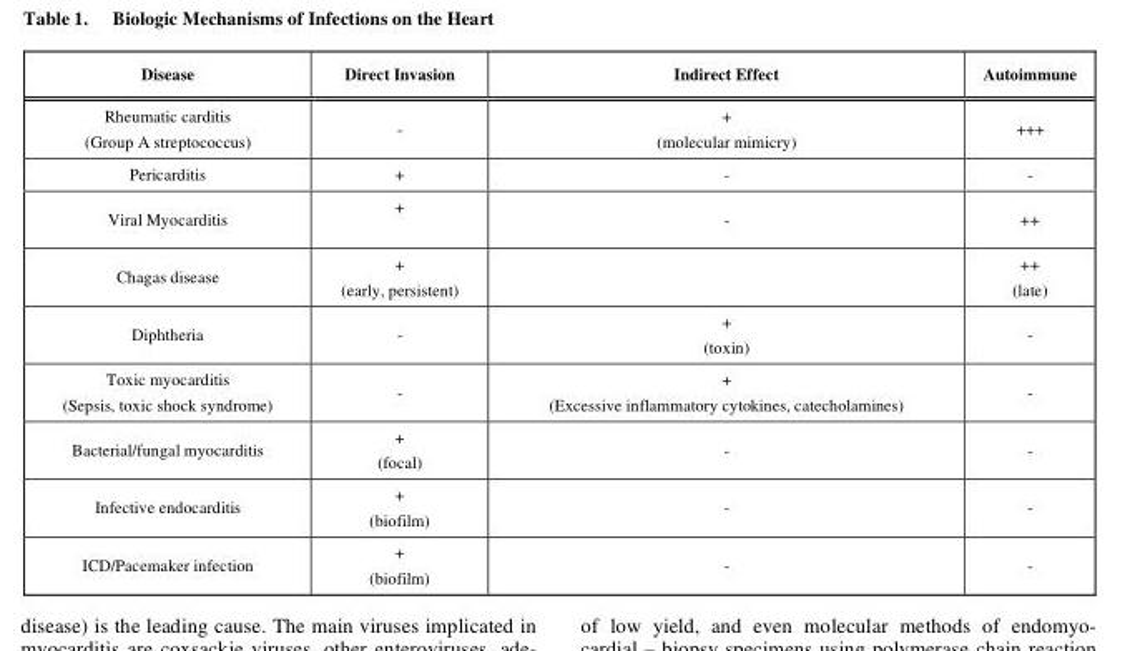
<table><thead><tr><td>Disease</td><td>Direct Invasion</td><td>Indirect Effect</td><td>Autoimmune</td></tr></thead><tbody><tr><td>Rheumatic carditis (Group A streptococcus)</td><td>-</td><td>+ (molecular mimicry)</td><td>+++</td></tr><tr><td>Pericarditis</td><td>+</td><td>-</td><td>-</td></tr><tr><td>Viral Myocarditis</td><td>+</td><td>-</td><td>++</td></tr><tr><td>Chagas disease</td><td>+ (early, persistent)</td><td></td><td>++ (late)</td></tr><tr><td>Diphtheria</td><td>-</td><td>+ (toxin)</td><td>-</td></tr><tr><td>Toxic myocarditis (Sepsis, toxic shock syndrome)</td><td>-</td><td>+ (Excessive inflammatory cytokines, catecholamines)</td><td>-</td></tr><tr><td>Bacterial/fungal myocarditis</td><td>+ (focal)</td><td>-</td><td>-</td></tr><tr><td>Infective endocarditis</td><td>+ (biofilm)</td><td>-</td><td>-</td></tr><tr><td>ICD/Pacemaker infection</td><td>+ (biofilm)</td><td>-</td><td>-</td></tr></tbody></table>